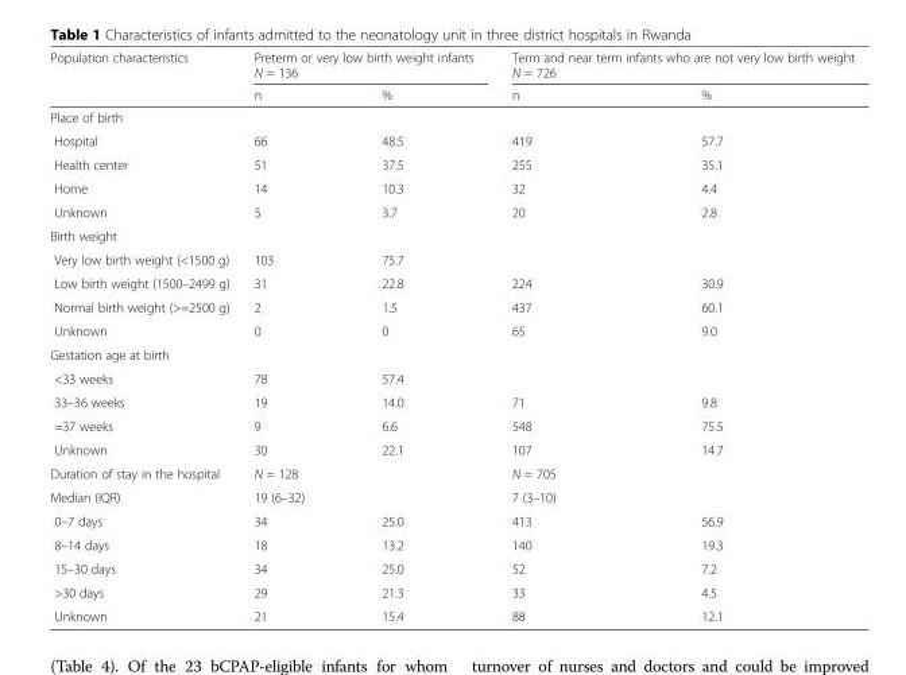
<table><thead><tr><td rowspan="3">Population characteristics</td><td rowspan="2" colspan="2">Preterm or very low birth weight infants N = 136</td><td rowspan="2" colspan="2">Term and near term infants who are not very low birth weight N = 726</td></tr><tr></tr><tr><td>n</td><td>%</td><td>n</td><td>%</td></tr></thead><tbody><tr><td colspan="5">Place of birth</td></tr><tr><td>Hospital</td><td>66</td><td>48.5</td><td>419</td><td>57.7</td></tr><tr><td>Health center</td><td>51</td><td>37.5</td><td>255</td><td>35.1</td></tr><tr><td>Home</td><td>14</td><td>10.3</td><td>32</td><td>4.4</td></tr><tr><td>Unknown</td><td>5</td><td>3.7</td><td>20</td><td>2.8</td></tr><tr><td colspan="5">Birth weight</td></tr><tr><td>Very low birth weight (&lt;1500 g)</td><td>103</td><td>75.7</td><td></td><td></td></tr><tr><td>Low birth weight (1500–2499 g)</td><td>31</td><td>22.8</td><td>224</td><td>30.9</td></tr><tr><td>Normal birth weight (&gt;=2500 g)</td><td>2</td><td>1.5</td><td>437</td><td>60.1</td></tr><tr><td>Unknown</td><td>0</td><td>0</td><td>65</td><td>9.0</td></tr><tr><td colspan="5">Gestation age at birth</td></tr><tr><td>&lt;33 weeks</td><td>78</td><td>57.4</td><td></td><td></td></tr><tr><td>33–36 weeks</td><td>19</td><td>14.0</td><td>71</td><td>9.8</td></tr><tr><td>=37 weeks</td><td>9</td><td>6.6</td><td>548</td><td>75.5</td></tr><tr><td>Unknown</td><td>30</td><td>22.1</td><td>107</td><td>14.7</td></tr><tr><td>Duration of stay in the hospital</td><td colspan="2">N = 128</td><td colspan="2">N = 705</td></tr><tr><td>Median (IQR)</td><td colspan="2">19 (6–32)</td><td colspan="2">7 (3–10)</td></tr><tr><td>0–7 days</td><td>34</td><td>25.0</td><td>413</td><td>56.9</td></tr><tr><td>8–14 days</td><td>18</td><td>13.2</td><td>140</td><td>19.3</td></tr><tr><td>15–30 days</td><td>34</td><td>25.0</td><td>52</td><td>7.2</td></tr><tr><td>&gt;30 days</td><td>29</td><td>21.3</td><td>33</td><td>4.5</td></tr><tr><td>Unknown</td><td>21</td><td>15.4</td><td>88</td><td>12.1</td></tr></tbody></table>